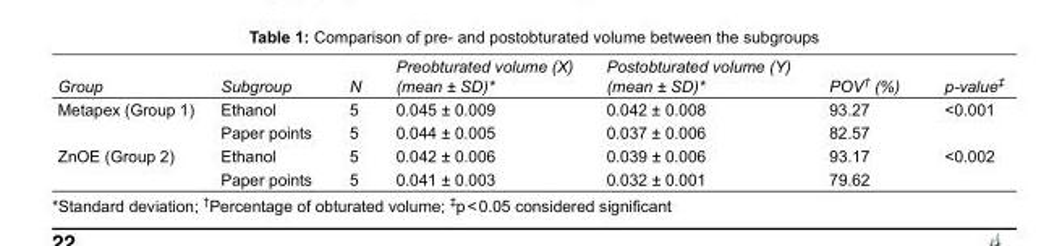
<table><tbody><tr><td>Group</td><td>Subgroup</td><td>N</td><td>Preobturated volume (X) (mean ± SD)*</td><td>Postobturated volume (Y) (mean ± SD)*</td><td>POV<sup>†</sup> (%)</td><td>p-value<sup>‡</sup></td></tr><tr><td rowspan="2">Metapex (Group 1)</td><td>Ethanol</td><td>5</td><td>0.045 ± 0.009</td><td>0.042 ± 0.008</td><td>93.27</td><td>&lt;0.001</td></tr><tr><td>Paper points</td><td>5</td><td>0.044 ± 0.005</td><td>0.037 ± 0.006</td><td>82.57</td><td></td></tr><tr><td rowspan="2">ZnOE (Group 2)</td><td>Ethanol</td><td>5</td><td>0.042 ± 0.006</td><td>0.039 ± 0.006</td><td>93.17</td><td>&lt;0.002</td></tr><tr><td>Paper points</td><td>5</td><td>0.041 ± 0.003</td><td>0.032 ± 0.001</td><td>79.62</td><td></td></tr></tbody></table>